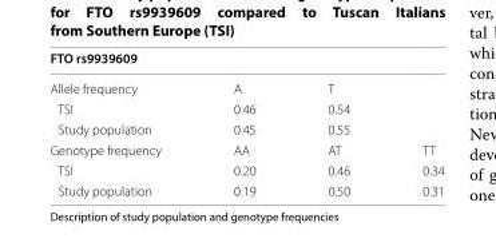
<table><thead><tr><td colspan="4">FTO rs9939609</td></tr><tr><td>Allele frequency</td><td>A</td><td>T</td><td></td></tr></thead><tbody><tr><td>TSI</td><td>0.46</td><td>0.54</td><td></td></tr><tr><td>Study population</td><td>0.45</td><td>0.55</td><td></td></tr><tr><td>Genotype frequency</td><td>AA</td><td>AT</td><td>TT</td></tr><tr><td>TSI</td><td>0.20</td><td>0.46</td><td>0.34</td></tr><tr><td>Study population</td><td>0.19</td><td>0.50</td><td>0.31</td></tr></tbody></table>